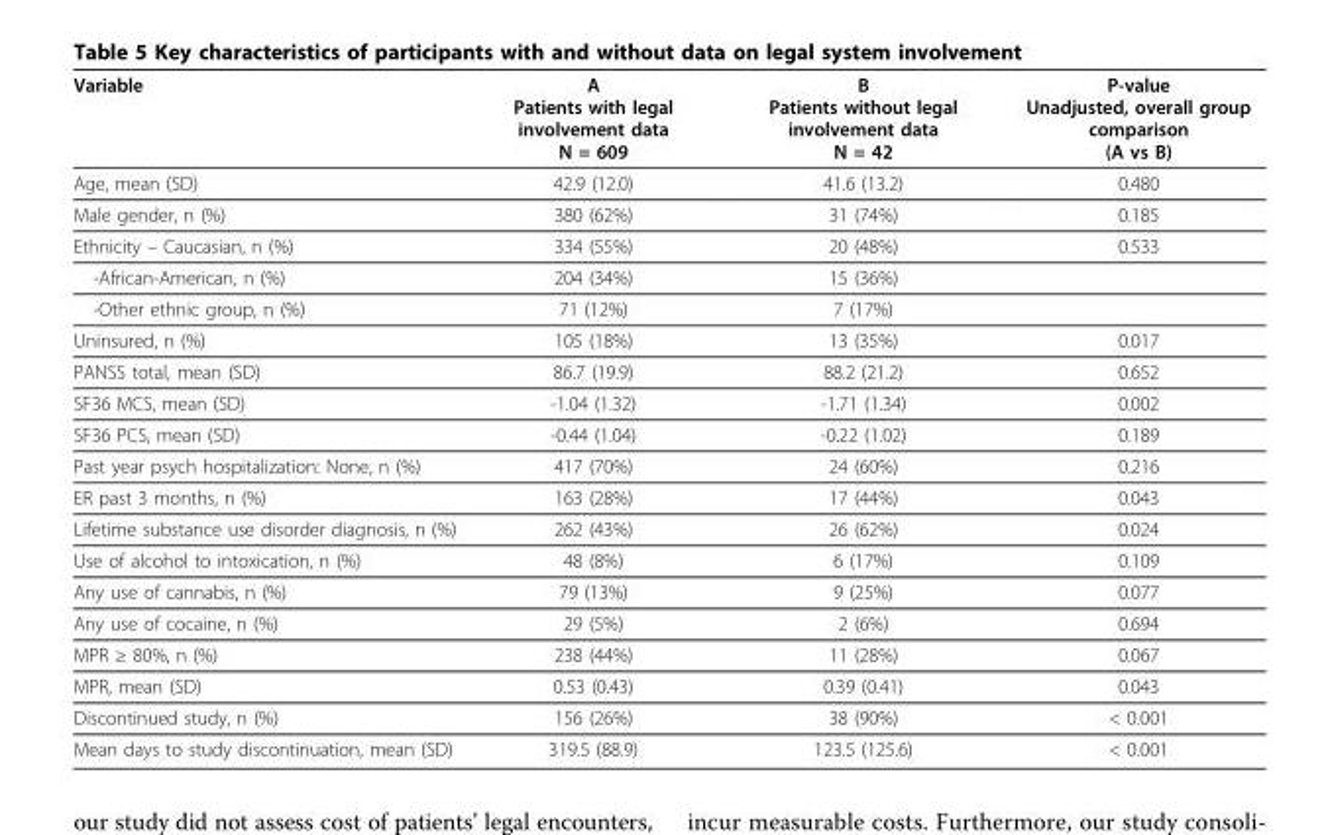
<table><thead><tr><td>Variable</td><td>A Patients with legal involvement data N = 609</td><td>B Patients without legal involvement data N = 42</td><td>P-value Unadjusted, overall group comparison (A vs B)</td></tr></thead><tbody><tr><td>Age, mean (SD)</td><td>42.9 (12.0)</td><td>41.6 (13.2)</td><td>0.480</td></tr><tr><td>Male gender, n (%)</td><td>380 (62%)</td><td>31 (74%)</td><td>0.185</td></tr><tr><td>Ethnicity – Caucasian, n (%)</td><td>334 (55%)</td><td>20 (48%)</td><td>0.533</td></tr><tr><td>-African-American, n (%)</td><td>204 (34%)</td><td>15 (36%)</td><td></td></tr><tr><td>-Other ethnic group, n (%)</td><td>71 (12%)</td><td>7 (17%)</td><td></td></tr><tr><td>Uninsured, n (%)</td><td>105 (18%)</td><td>13 (35%)</td><td>0.017</td></tr><tr><td>PANSS total, mean (SD)</td><td>86.7 (19.9)</td><td>88.2 (21.2)</td><td>0.652</td></tr><tr><td>SF36 MCS, mean (SD)</td><td>-1.04 (1.32)</td><td>-1.71 (1.34)</td><td>0.002</td></tr><tr><td>SF36 PCS, mean (SD)</td><td>-0.44 (1.04)</td><td>-0.22 (1.02)</td><td>0.189</td></tr><tr><td>Past year psych hospitalization: None, n (%)</td><td>417 (70%)</td><td>24 (60%)</td><td>0.216</td></tr><tr><td>ER past 3 months, n (%)</td><td>163 (28%)</td><td>17 (44%)</td><td>0.043</td></tr><tr><td>Lifetime substance use disorder diagnosis, n (%)</td><td>262 (43%)</td><td>26 (62%)</td><td>0.024</td></tr><tr><td>Use of alcohol to intoxication, n (%)</td><td>48 (8%)</td><td>6 (17%)</td><td>0.109</td></tr><tr><td>Any use of cannabis, n (%)</td><td>79 (13%)</td><td>9 (25%)</td><td>0.077</td></tr><tr><td>Any use of cocaine, n (%)</td><td>29 (5%)</td><td>2 (6%)</td><td>0.694</td></tr><tr><td>MPR ≥ 80%, n (%)</td><td>238 (44%)</td><td>11 (28%)</td><td>0.067</td></tr><tr><td>MPR, mean (SD)</td><td>0.53 (0.43)</td><td>0.39 (0.41)</td><td>0.043</td></tr><tr><td>Discontinued study, n (%)</td><td>156 (26%)</td><td>38 (90%)</td><td>&lt; 0.001</td></tr><tr><td>Mean days to study discontinuation, mean (SD)</td><td>319.5 (88.9)</td><td>123.5 (125.6)</td><td>&lt; 0.001</td></tr></tbody></table>